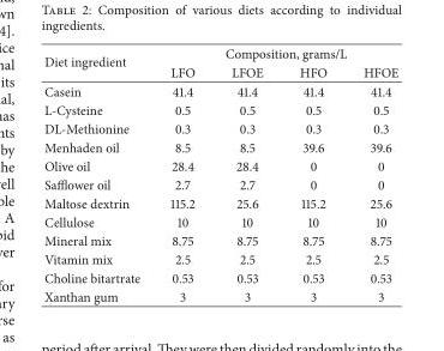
<table><thead><tr><td rowspan="2">Diet ingredient</td><td colspan="4">Composition, grams/L</td></tr><tr><td>LFO</td><td>LFOE</td><td>HFO</td><td>HFOE</td></tr></thead><tbody><tr><td>Casein</td><td>41.4</td><td>41.4</td><td>41.4</td><td>41.4</td></tr><tr><td>L-Cysteine</td><td>0.5</td><td>0.5</td><td>0.5</td><td>0.5</td></tr><tr><td>DL-Methionine</td><td>0.3</td><td>0.3</td><td>0.3</td><td>0.3</td></tr><tr><td>Menhaden oil</td><td>8.5</td><td>8.5</td><td>39.6</td><td>39.6</td></tr><tr><td>Olive oil</td><td>28.4</td><td>28.4</td><td>0</td><td>0</td></tr><tr><td>Safflower oil</td><td>2.7</td><td>2.7</td><td>0</td><td>0</td></tr><tr><td>Maltose dextrin</td><td>115.2</td><td>25.6</td><td>115.2</td><td>25.6</td></tr><tr><td>Cellulose</td><td>10</td><td>10</td><td>10</td><td>10</td></tr><tr><td>Mineral mix</td><td>8.75</td><td>8.75</td><td>8.75</td><td>8.75</td></tr><tr><td>Vitamin mix</td><td>2.5</td><td>2.5</td><td>2.5</td><td>2.5</td></tr><tr><td>Choline bitartrate</td><td>0.53</td><td>0.53</td><td>0.53</td><td>0.53</td></tr><tr><td>Xanthan gum</td><td>3</td><td>3</td><td>3</td><td>3</td></tr></tbody></table>